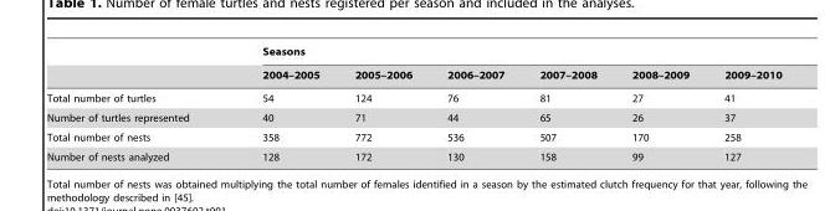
<table><thead><tr><td rowspan="2"></td><td colspan="6">Seasons</td></tr><tr><td>2004–2005</td><td>2005–2006</td><td>2006–2007</td><td>2007–2008</td><td>2008–2009</td><td>2009–2010</td></tr></thead><tbody><tr><td>Total number of turtles</td><td>54</td><td>124</td><td>76</td><td>81</td><td>27</td><td>41</td></tr><tr><td>Number of turtles represented</td><td>40</td><td>71</td><td>44</td><td>65</td><td>26</td><td>37</td></tr><tr><td>Total number of nests</td><td>358</td><td>772</td><td>536</td><td>507</td><td>170</td><td>258</td></tr><tr><td>Number of nests analyzed</td><td>128</td><td>172</td><td>130</td><td>158</td><td>99</td><td>127</td></tr></tbody></table>